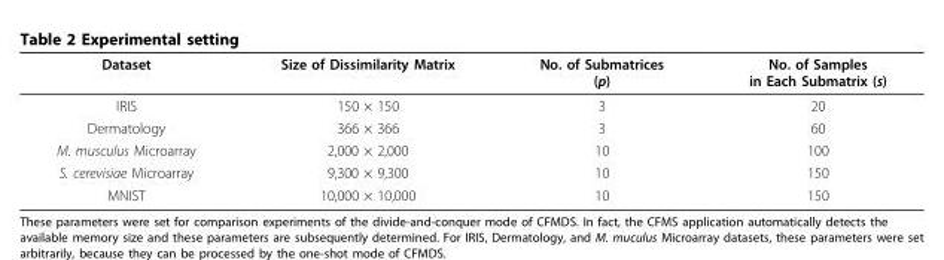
<table><thead><tr><td>Dataset</td><td>Size of Dissimilarity Matrix</td><td>No. of Submatrices (p)</td><td>No. of Samples in Each Submatrix (s)</td></tr></thead><tbody><tr><td>IRIS</td><td>150 × 150</td><td>3</td><td>20</td></tr><tr><td>Dermatology</td><td>366 × 366</td><td>3</td><td>60</td></tr><tr><td>M. musculus Microarray</td><td>2,000 × 2,000</td><td>10</td><td>100</td></tr><tr><td>S. cerevisiae Microarray</td><td>9,300 × 9,300</td><td>10</td><td>150</td></tr><tr><td>MNIST</td><td>10,000 × 10,000</td><td>10</td><td>150</td></tr></tbody></table>